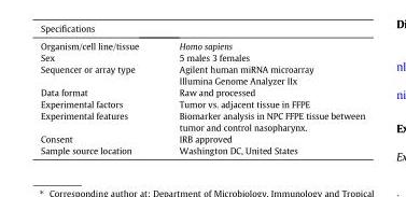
<table><tbody><tr><td>Organism/cell line/tissue</td><td>Homo sapiens</td></tr><tr><td>Sex</td><td>5 males 3 females</td></tr><tr><td>Sequencer or array type</td><td>Agilent human miRNA microarray Illumina Genome Analyzer IIx</td></tr><tr><td>Data format</td><td>Raw and processed</td></tr><tr><td>Experimental factors</td><td>Tumor vs. adjacent tissue in FFPE</td></tr><tr><td>Experimental features</td><td>Biomarker analysis in NPC FFPE tissue between tumor and control nasopharynx.</td></tr><tr><td>Consent</td><td>IRB approved</td></tr><tr><td>Sample source location</td><td>Washington DC, United States</td></tr></tbody></table>